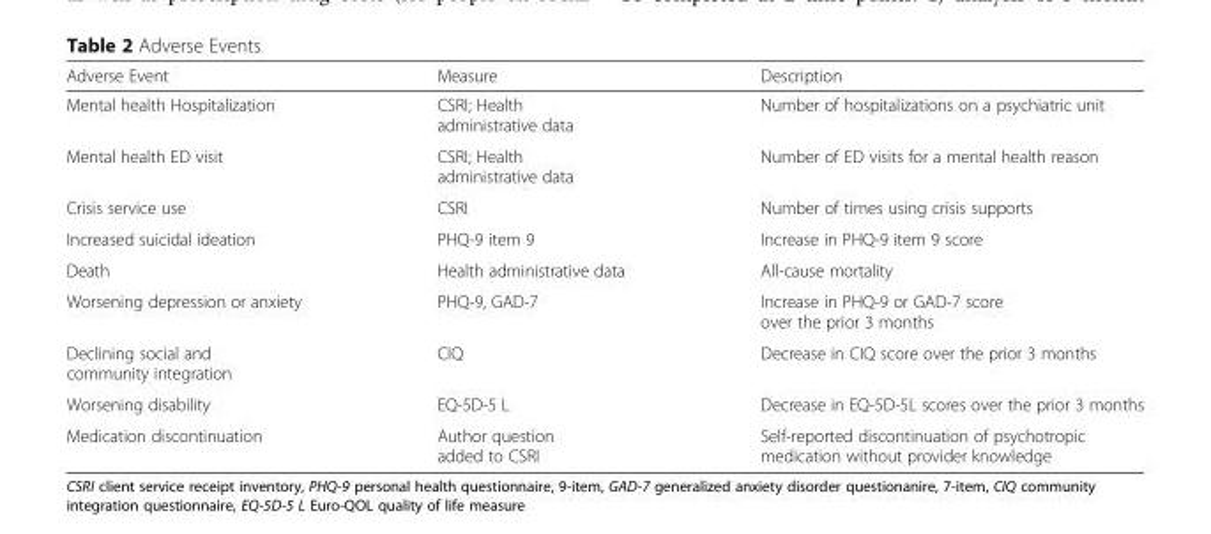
<table><thead><tr><td>Adverse Event</td><td>Measure</td><td>Description</td></tr></thead><tbody><tr><td>Mental health Hospitalization</td><td>CSRI; Health administrative data</td><td>Number of hospitalizations on a psychiatric unit</td></tr><tr><td>Mental health ED visit</td><td>CSRI; Health administrative data</td><td>Number of ED visits for a mental health reason</td></tr><tr><td>Crisis service use</td><td>CSRI</td><td>Number of times using crisis supports</td></tr><tr><td>Increased suicidal ideation</td><td>PHQ-9 item 9</td><td>Increase in PHQ-9 item 9 score</td></tr><tr><td>Death</td><td>Health administrative data</td><td>All-cause mortality</td></tr><tr><td>Worsening depression or anxiety</td><td>PHQ-9, GAD-7</td><td>Increase in PHQ-9 or GAD-7 score over the prior 3 months</td></tr><tr><td>Declining social and community integration</td><td>CIQ</td><td>Decrease in CIQ score over the prior 3 months</td></tr><tr><td>Worsening disability</td><td>EQ-5D-5 L</td><td>Decrease in EQ-5D-5L scores over the prior 3 months</td></tr><tr><td>Medication discontinuation</td><td>Author question added to CSRI</td><td>Self-reported discontinuation of psychotropic medication without provider knowledge</td></tr></tbody></table>